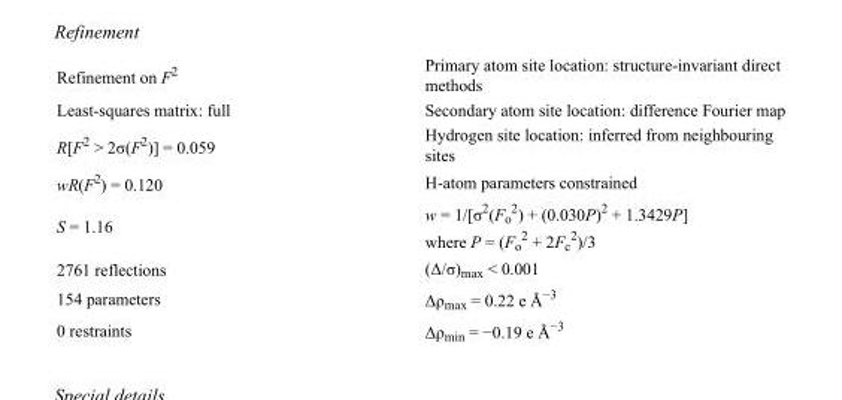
<table><tbody><tr><td>Refinement on F<sup>2</sup></td><td>Primary atom site location: structure-invariant direct methods</td></tr><tr><td>Least-squares matrix: full</td><td>Secondary atom site location: difference Fourier map</td></tr><tr><td>R[F<sup>2</sup> &gt; 2σ(F<sup>2</sup>)] = 0.059</td><td>Hydrogen site location: inferred from neighbouring sites</td></tr><tr><td>wR(F<sup>2</sup>) = 0.120</td><td>H-atom parameters constrained</td></tr><tr><td>S = 1.16</td><td>w = 1/[σ<sup>2</sup>(F<sub>o</sub> <sup>2</sup>) + (0.030P)<sup>2</sup> + 1.3429P] where P = (F<sub>o</sub> <sup>2</sup> + 2F<sub>c</sub> <sup>2</sup>)/3</td></tr><tr><td>2761 reflections</td><td>(Δ/σ)<sub>max</sub> &lt; 0.001</td></tr><tr><td>154 parameters</td><td>Δρ<sub>max</sub> = 0.22 e Å<sup>−3</sup></td></tr><tr><td>0 restraints</td><td>Δρ<sub>min</sub> = −0.19 e Å<sup>−3</sup></td></tr></tbody></table>